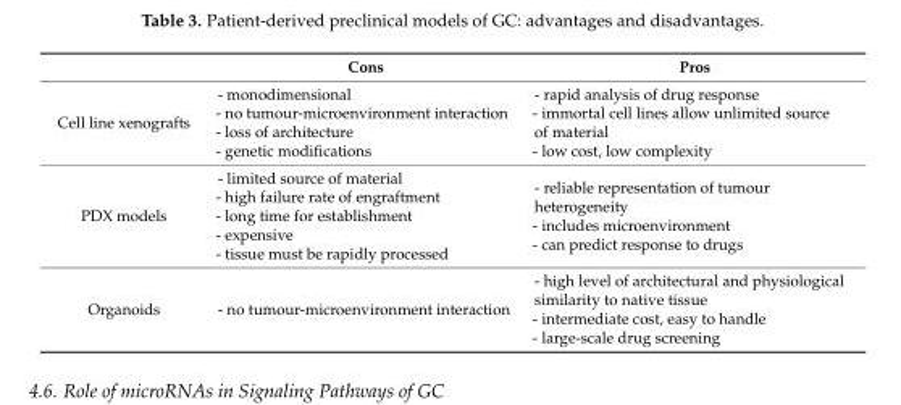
<table><thead><tr><td></td><td>Cons</td><td>Pros</td></tr></thead><tbody><tr><td>Cell line xenografts</td><td>- monodimensional - no tumour-microenvironment interaction - loss of architecture - genetic modifications</td><td>- rapid analysis of drug response - immortal cell lines allow unlimited source of material - low cost, low complexity</td></tr><tr><td>PDX models</td><td>- limited source of material - high failure rate of engraftment - long time for establishment - expensive - tissue must be rapidly processed</td><td>- reliable representation of tumour heterogeneity - includes microenvironment - can predict response to drugs</td></tr><tr><td>Organoids</td><td>- no tumour-microenvironment interaction</td><td>- high level of architectural and physiological similarity to native tissue - intermediate cost, easy to handle - large-scale drug screening</td></tr></tbody></table>